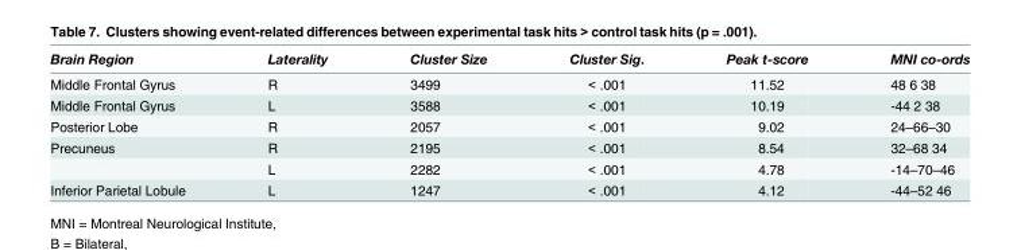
<table><thead><tr><td>Brain Region</td><td>Laterality</td><td>Cluster Size</td><td>Cluster Sig.</td><td>Peak t-score</td><td>MNI co-ords</td></tr></thead><tbody><tr><td>Middle Frontal Gyrus</td><td>R</td><td>3499</td><td>&lt; .001</td><td>11.52</td><td>48 6 38</td></tr><tr><td>Middle Frontal Gyrus</td><td>L</td><td>3588</td><td>&lt; .001</td><td>10.19</td><td>-44 2 38</td></tr><tr><td>Posterior Lobe</td><td>R</td><td>2057</td><td>&lt; .001</td><td>9.02</td><td>24–66–30</td></tr><tr><td rowspan="2">Precuneus</td><td>R</td><td>2195</td><td>&lt; .001</td><td>8.54</td><td>32–68 34</td></tr><tr><td>L</td><td>2282</td><td>&lt; .001</td><td>4.78</td><td>-14–70–46</td></tr><tr><td>Inferior Parietal Lobule</td><td>L</td><td>1247</td><td>&lt; .001</td><td>4.12</td><td>-44–52 46</td></tr></tbody></table>